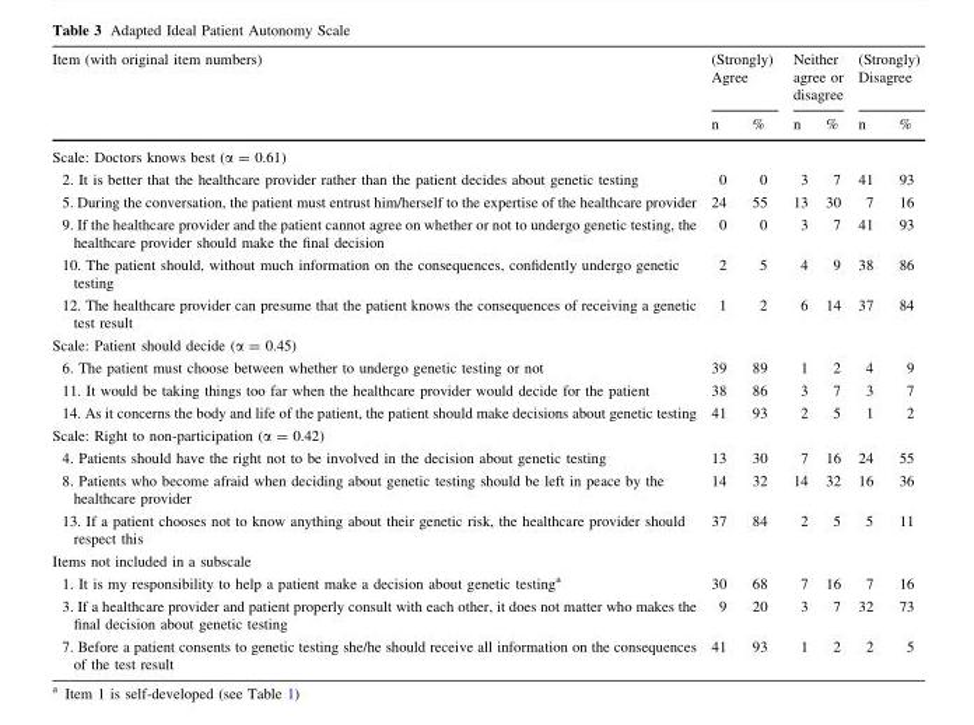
<table><thead><tr><td rowspan="2">Item (with original item numbers)</td><td colspan="2">(Strongly) Agree</td><td colspan="2">Neither agree or disagree</td><td colspan="2">(Strongly) Disagree</td></tr><tr><td>n</td><td>%</td><td>n</td><td>%</td><td>n</td><td>%</td></tr></thead><tbody><tr><td colspan="7">Scale: Doctors knows best (α = 0.61)</td></tr><tr><td>2. It is better that the healthcare provider rather than the patient decides about genetic testing</td><td>0</td><td>0</td><td>3</td><td>7</td><td>41</td><td>93</td></tr><tr><td>5. During the conversation, the patient must entrust him/herself to the expertise of the healthcare provider</td><td>24</td><td>55</td><td>13</td><td>30</td><td>7</td><td>16</td></tr><tr><td>9. If the healthcare provider and the patient cannot agree on whether or not to undergo genetic testing, the healthcare provider should make the final decision</td><td>0</td><td>0</td><td>3</td><td>7</td><td>41</td><td>93</td></tr><tr><td>10. The patient should, without much information on the consequences, confidently undergo genetic testing</td><td>2</td><td>5</td><td>4</td><td>9</td><td>38</td><td>86</td></tr><tr><td>12. The healthcare provider can presume that the patient knows the consequences of receiving a genetic test result</td><td>1</td><td>2</td><td>6</td><td>14</td><td>37</td><td>84</td></tr><tr><td colspan="7">Scale: Patient should decide (α = 0.45)</td></tr><tr><td>6. The patient must choose between whether to undergo genetic testing or not</td><td>39</td><td>89</td><td>1</td><td>2</td><td>4</td><td>9</td></tr><tr><td>11. It would be taking things too far when the healthcare provider would decide for the patient</td><td>38</td><td>86</td><td>3</td><td>7</td><td>3</td><td>7</td></tr><tr><td>14. As it concerns the body and life of the patient, the patient should make decisions about genetic testing</td><td>41</td><td>93</td><td>2</td><td>5</td><td>1</td><td>2</td></tr><tr><td colspan="7">Scale: Right to non-participation (α = 0.42)</td></tr><tr><td>4. Patients should have the right not to be involved in the decision about genetic testing</td><td>13</td><td>30</td><td>7</td><td>16</td><td>24</td><td>55</td></tr><tr><td>8. Patients who become afraid when deciding about genetic testing should be left in peace by the healthcare provider</td><td>14</td><td>32</td><td>14</td><td>32</td><td>16</td><td>36</td></tr><tr><td>13. If a patient chooses not to know anything about their genetic risk, the healthcare provider should respect this</td><td>37</td><td>84</td><td>2</td><td>5</td><td>5</td><td>11</td></tr><tr><td colspan="7">Items not included in a subscale</td></tr><tr><td>1. It is my responsibility to help a patient make a decision about genetic testing<sup>a</sup></td><td>30</td><td>68</td><td>7</td><td>16</td><td>7</td><td>16</td></tr><tr><td>3. If a healthcare provider and patient properly consult with each other, it does not matter who makes the final decision about genetic testing</td><td>9</td><td>20</td><td>3</td><td>7</td><td>32</td><td>73</td></tr><tr><td>7. Before a patient consents to genetic testing she/he should receive all information on the consequences of the test result</td><td>41</td><td>93</td><td>1</td><td>2</td><td>2</td><td>5</td></tr></tbody></table>